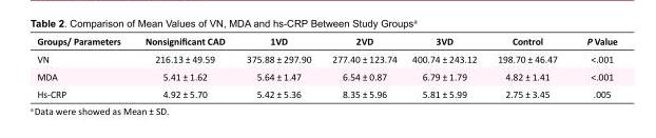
<table><tbody><tr><td>Groups/ Parameters</td><td>Nonsignificant CAD</td><td>1VD</td><td>2VD</td><td>3VD</td><td>Control</td><td>P Value</td></tr><tr><td>VN</td><td>216.13 ± 49.59</td><td>375.88 ± 297.90</td><td>277.40 ± 123.74</td><td>400.74 ± 243.12</td><td>198.70 ± 46.47</td><td>&lt;.001</td></tr><tr><td>MDA</td><td>5.41 ± 1.62</td><td>5.64 ± 1.47</td><td>6.54 ± 0.87</td><td>6.79 ± 1.79</td><td>4.82 ± 1.41</td><td>&lt;.001</td></tr><tr><td>Hs-CRP</td><td>4.92 ± 5.70</td><td>5.42 ± 5.36</td><td>8.35 ± 5.96</td><td>5.81 ± 5.99</td><td>2.75 ± 3.45</td><td>.005</td></tr></tbody></table>